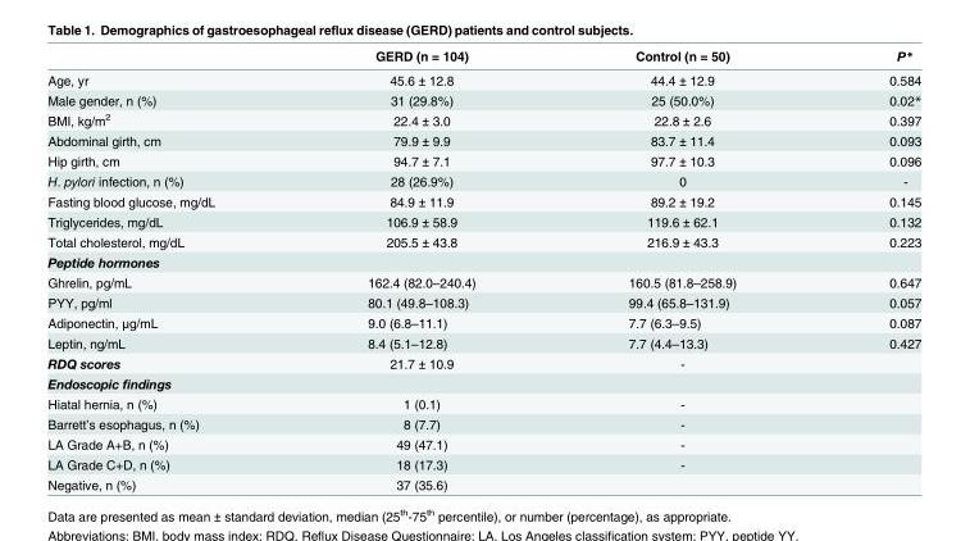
<table><thead><tr><td></td><td>GERD (n = 104)</td><td>Control (n = 50)</td><td>P*</td></tr></thead><tbody><tr><td>Age, yr</td><td>45.6 ± 12.8</td><td>44.4 ± 12.9</td><td>0.584</td></tr><tr><td>Male gender, n (%)</td><td>31 (29.8%)</td><td>25 (50.0%)</td><td>0.02*</td></tr><tr><td>BMI, kg/m<sup>2</sup></td><td>22.4 ± 3.0</td><td>22.8 ± 2.6</td><td>0.397</td></tr><tr><td>Abdominal girth, cm</td><td>79.9 ± 9.9</td><td>83.7 ± 11.4</td><td>0.093</td></tr><tr><td>Hip girth, cm</td><td>94.7 ± 7.1</td><td>97.7 ± 10.3</td><td>0.096</td></tr><tr><td>H. pylori infection, n (%)</td><td>28 (26.9%)</td><td>0</td><td>-</td></tr><tr><td>Fasting blood glucose, mg/dL</td><td>84.9 ± 11.9</td><td>89.2 ± 19.2</td><td>0.145</td></tr><tr><td>Triglycerides, mg/dL</td><td>106.9 ± 58.9</td><td>119.6 ± 62.1</td><td>0.132</td></tr><tr><td>Total cholesterol, mg/dL</td><td>205.5 ± 43.8</td><td>216.9 ± 43.3</td><td>0.223</td></tr><tr><td colspan="4">Peptide hormones</td></tr><tr><td>Ghrelin, pg/mL</td><td>162.4 (82.0–240.4)</td><td>160.5 (81.8–258.9)</td><td>0.647</td></tr><tr><td>PYY, pg/ml</td><td>80.1 (49.8–108.3)</td><td>99.4 (65.8–131.9)</td><td>0.057</td></tr><tr><td>Adiponectin, μg/mL</td><td>9.0 (6.8–11.1)</td><td>7.7 (6.3–9.5)</td><td>0.087</td></tr><tr><td>Leptin, ng/mL</td><td>8.4 (5.1–12.8)</td><td>7.7 (4.4–13.3)</td><td>0.427</td></tr><tr><td>RDQ scores</td><td>21.7 ± 10.9</td><td>-</td><td></td></tr><tr><td colspan="4">Endoscopic findings</td></tr><tr><td>Hiatal hernia, n (%)</td><td>1 (0.1)</td><td>-</td><td></td></tr><tr><td>Barrett’s esophagus, n (%)</td><td>8 (7.7)</td><td>-</td><td></td></tr><tr><td>LA Grade A+B, n (%)</td><td>49 (47.1)</td><td>-</td><td></td></tr><tr><td>LA Grade C+D, n (%)</td><td>18 (17.3)</td><td>-</td><td></td></tr><tr><td>Negative, n (%)</td><td>37 (35.6)</td><td></td><td></td></tr></tbody></table>